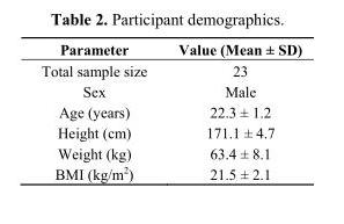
<table><thead><tr><td>Parameter</td><td>Value (Mean ± SD)</td></tr></thead><tbody><tr><td>Total sample size</td><td>23</td></tr><tr><td>Sex</td><td>Male</td></tr><tr><td>Age (years)</td><td>22.3 ± 1.2</td></tr><tr><td>Height (cm)</td><td>171.1 ± 4.7</td></tr><tr><td>Weight (kg)</td><td>63.4 ± 8.1</td></tr><tr><td>BMI (kg/m<sup>2</sup>)</td><td>21.5 ± 2.1</td></tr></tbody></table>